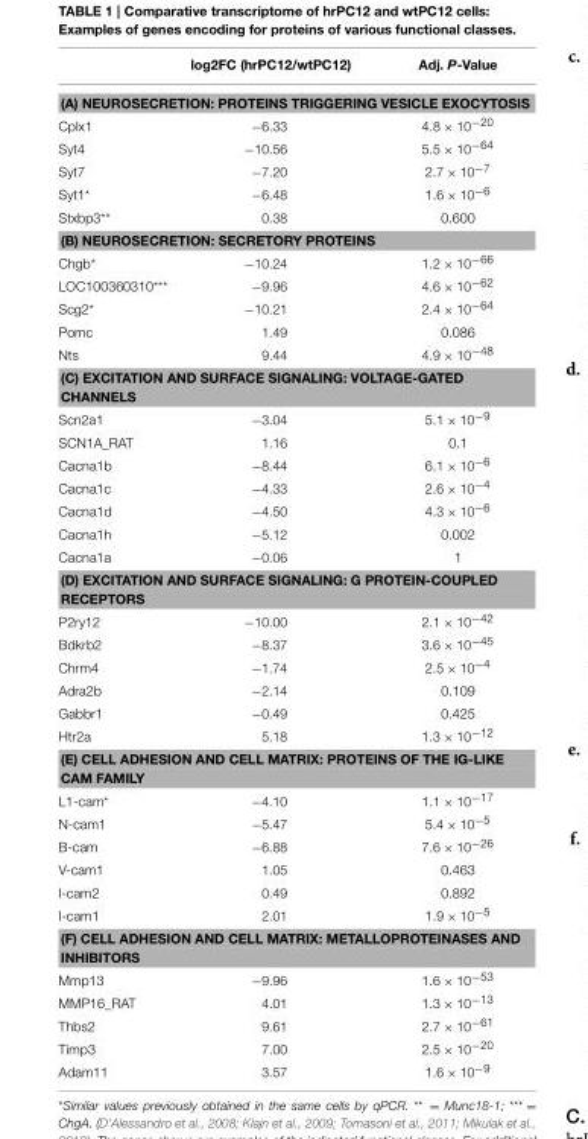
<table><thead><tr><td></td><td>log2FC (hrPC12/wtPC12)</td><td>Adj. P-Value</td></tr></thead><tbody><tr><td colspan="3">(A) NEUROSECRETION: PROTEINS TRIGGERING VESICLE EXOCYTOSIS</td></tr><tr><td>Cplx1</td><td>−6.33</td><td>4.8 × 10<sup>−20</sup></td></tr><tr><td>Syt4</td><td>−10.56</td><td>5.5 × 10<sup>−64</sup></td></tr><tr><td>Syt7</td><td>−7.20</td><td>2.7 × 10<sup>−7</sup></td></tr><tr><td>Syt1*</td><td>−6.48</td><td>1.6 × 10<sup>−6</sup></td></tr><tr><td>Stxbp3**</td><td>0.38</td><td>0.600</td></tr><tr><td colspan="3">(B) NEUROSECRETION: SECRETORY PROTEINS</td></tr><tr><td>Chgb*</td><td>−10.24</td><td>1.2 × 10<sup>−66</sup></td></tr><tr><td>LOC100360310***</td><td>−9.96</td><td>4.6 × 10<sup>−62</sup></td></tr><tr><td>Scg2*</td><td>−10.21</td><td>2.4 × 10<sup>−64</sup></td></tr><tr><td>Pomc</td><td>1.49</td><td>0.086</td></tr><tr><td>Nts</td><td>9.44</td><td>4.9 × 10<sup>−48</sup></td></tr><tr><td colspan="3">(C) EXCITATION AND SURFACE SIGNALING: VOLTAGE-GATED CHANNELS</td></tr><tr><td>Scn2a1</td><td>−3.04</td><td>5.1 × 10<sup>−9</sup></td></tr><tr><td>SCN1A_RAT</td><td>1.16</td><td>0.1</td></tr><tr><td>Cacna1b</td><td>−8.44</td><td>6.1 × 10<sup>−6</sup></td></tr><tr><td>Cacna1c</td><td>−4.33</td><td>2.6 × 10<sup>−4</sup></td></tr><tr><td>Cacna1d</td><td>−4.50</td><td>4.3 × 10<sup>−6</sup></td></tr><tr><td>Cacna1h</td><td>−5.12</td><td>0.002</td></tr><tr><td>Cacna1a</td><td>−0.06</td><td>1</td></tr><tr><td colspan="3">(D) EXCITATION AND SURFACE SIGNALING: G PROTEIN-COUPLED RECEPTORS</td></tr><tr><td>P2ry12</td><td>−10.00</td><td>2.1 × 10<sup>−42</sup></td></tr><tr><td>Bdkrb2</td><td>−8.37</td><td>3.6 × 10<sup>−45</sup></td></tr><tr><td>Chrm4</td><td>−1.74</td><td>2.5 × 10<sup>−4</sup></td></tr><tr><td>Adra2b</td><td>−2.14</td><td>0.109</td></tr><tr><td>Gabbr1</td><td>−0.49</td><td>0.425</td></tr><tr><td>Htr2a</td><td>5.18</td><td>1.3 × 10<sup>−12</sup></td></tr><tr><td colspan="3">(E) CELL ADHESION AND CELL MATRIX: PROTEINS OF THE IG-LIKE CAM FAMILY</td></tr><tr><td>L1-cam*</td><td>−4.10</td><td>1.1 × 10<sup>−17</sup></td></tr><tr><td>N-cam1</td><td>−5.47</td><td>5.4 × 10<sup>−5</sup></td></tr><tr><td>B-cam</td><td>−6.88</td><td>7.6 × 10<sup>−26</sup></td></tr><tr><td>V-cam1</td><td>1.05</td><td>0.463</td></tr><tr><td>I-cam2</td><td>0.49</td><td>0.892</td></tr><tr><td>I-cam1</td><td>2.01</td><td>1.9 × 10<sup>−5</sup></td></tr><tr><td colspan="3">(F) CELL ADHESION AND CELL MATRIX: METALLOPROTEINASES AND INHIBITORS</td></tr><tr><td>Mmp13</td><td>−9.96</td><td>1.6 × 10<sup>−53</sup></td></tr><tr><td>MMP16_RAT</td><td>4.01</td><td>1.3 × 10<sup>−13</sup></td></tr><tr><td>Thbs2</td><td>9.61</td><td>2.7 × 10<sup>−61</sup></td></tr><tr><td>Timp3</td><td>7.00</td><td>2.5 × 10<sup>−20</sup></td></tr><tr><td>Adam11</td><td>3.57</td><td>1.6 × 10<sup>−9</sup></td></tr></tbody></table>